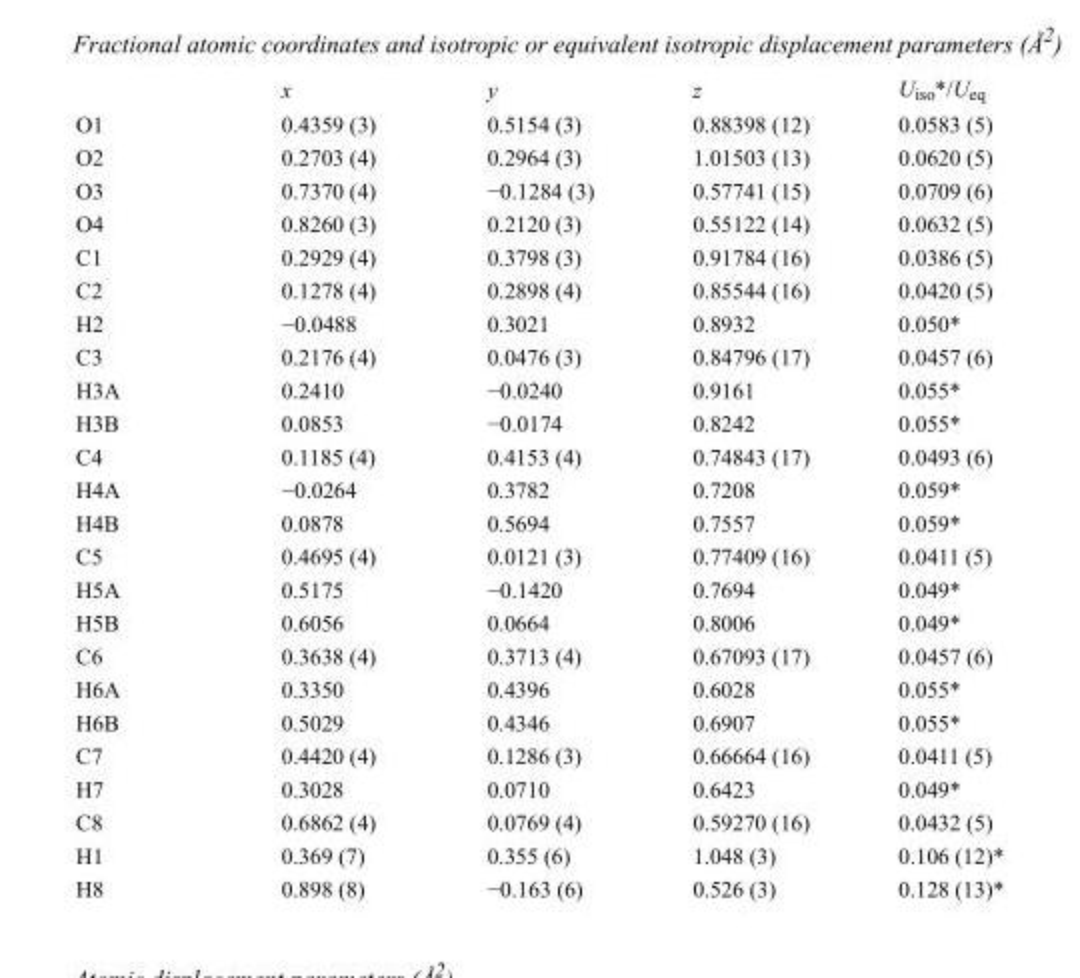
<table><thead><tr><td></td><td>x</td><td>y</td><td>z</td><td>U<sub>iso</sub>*/U<sub>eq</sub></td></tr></thead><tbody><tr><td>O1</td><td>0.4359 (3)</td><td>0.5154 (3)</td><td>0.88398 (12)</td><td>0.0583 (5)</td></tr><tr><td>O2</td><td>0.2703 (4)</td><td>0.2964 (3)</td><td>1.01503 (13)</td><td>0.0620 (5)</td></tr><tr><td>O3</td><td>0.7370 (4)</td><td>−0.1284 (3)</td><td>0.57741 (15)</td><td>0.0709 (6)</td></tr><tr><td>O4</td><td>0.8260 (3)</td><td>0.2120 (3)</td><td>0.55122 (14)</td><td>0.0632 (5)</td></tr><tr><td>C1</td><td>0.2929 (4)</td><td>0.3798 (3)</td><td>0.91784 (16)</td><td>0.0386 (5)</td></tr><tr><td>C2</td><td>0.1278 (4)</td><td>0.2898 (4)</td><td>0.85544 (16)</td><td>0.0420 (5)</td></tr><tr><td>H2</td><td>−0.0488</td><td>0.3021</td><td>0.8932</td><td>0.050*</td></tr><tr><td>C3</td><td>0.2176 (4)</td><td>0.0476 (3)</td><td>0.84796 (17)</td><td>0.0457 (6)</td></tr><tr><td>H3A</td><td>0.2410</td><td>−0.0240</td><td>0.9161</td><td>0.055*</td></tr><tr><td>H3B</td><td>0.0853</td><td>−0.0174</td><td>0.8242</td><td>0.055*</td></tr><tr><td>C4</td><td>0.1185 (4)</td><td>0.4153 (4)</td><td>0.74843 (17)</td><td>0.0493 (6)</td></tr><tr><td>H4A</td><td>−0.0264</td><td>0.3782</td><td>0.7208</td><td>0.059*</td></tr><tr><td>H4B</td><td>0.0878</td><td>0.5694</td><td>0.7557</td><td>0.059*</td></tr><tr><td>C5</td><td>0.4695 (4)</td><td>0.0121 (3)</td><td>0.77409 (16)</td><td>0.0411 (5)</td></tr><tr><td>H5A</td><td>0.5175</td><td>−0.1420</td><td>0.7694</td><td>0.049*</td></tr><tr><td>H5B</td><td>0.6056</td><td>0.0664</td><td>0.8006</td><td>0.049*</td></tr><tr><td>C6</td><td>0.3638 (4)</td><td>0.3713 (4)</td><td>0.67093 (17)</td><td>0.0457 (6)</td></tr><tr><td>H6A</td><td>0.3350</td><td>0.4396</td><td>0.6028</td><td>0.055*</td></tr><tr><td>H6B</td><td>0.5029</td><td>0.4346</td><td>0.6907</td><td>0.055*</td></tr><tr><td>C7</td><td>0.4420 (4)</td><td>0.1286 (3)</td><td>0.66664 (16)</td><td>0.0411 (5)</td></tr><tr><td>H7</td><td>0.3028</td><td>0.0710</td><td>0.6423</td><td>0.049*</td></tr><tr><td>C8</td><td>0.6862 (4)</td><td>0.0769 (4)</td><td>0.59270 (16)</td><td>0.0432 (5)</td></tr><tr><td>H1</td><td>0.369 (7)</td><td>0.355 (6)</td><td>1.048 (3)</td><td>0.106 (12)*</td></tr><tr><td>H8</td><td>0.898 (8)</td><td>−0.163 (6)</td><td>0.526 (3)</td><td>0.128 (13)*</td></tr></tbody></table>